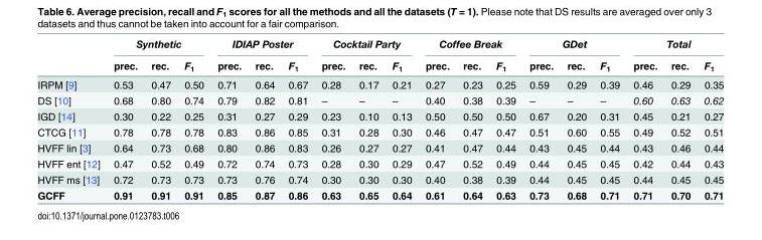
<table><thead><tr><td rowspan="2"></td><td colspan="3">Synthetic</td><td colspan="3">IDIAP Poster</td><td colspan="3">Cocktail Party</td><td colspan="3">Coffee Break</td><td colspan="3">GDet</td><td colspan="3">Total</td></tr><tr><td>prec.</td><td>rec.</td><td>F<sub>1</sub></td><td>prec.</td><td>rec.</td><td>F<sub>1</sub></td><td>prec.</td><td>rec.</td><td>F<sub>1</sub></td><td>prec.</td><td>rec.</td><td>F<sub>1</sub></td><td>prec.</td><td>rec.</td><td>F<sub>1</sub></td><td>prec.</td><td>rec.</td><td>F<sub>1</sub></td></tr></thead><tbody><tr><td>IRPM [9]</td><td>0.53</td><td>0.47</td><td>0.50</td><td>0.71</td><td>0.64</td><td>0.67</td><td>0.28</td><td>0.17</td><td>0.21</td><td>0.27</td><td>0.23</td><td>0.25</td><td>0.59</td><td>0.29</td><td>0.39</td><td>0.46</td><td>0.29</td><td>0.35</td></tr><tr><td>DS [10]</td><td>0.68</td><td>0.80</td><td>0.74</td><td>0.79</td><td>0.82</td><td>0.81</td><td>–</td><td>–</td><td>–</td><td>0.40</td><td>0.38</td><td>0.39</td><td>–</td><td>–</td><td>–</td><td>0.60</td><td>0.63</td><td>0.62</td></tr><tr><td>IGD [14]</td><td>0.30</td><td>0.22</td><td>0.25</td><td>0.31</td><td>0.27</td><td>0.29</td><td>0.23</td><td>0.10</td><td>0.13</td><td>0.50</td><td>0.50</td><td>0.50</td><td>0.67</td><td>0.20</td><td>0.31</td><td>0.45</td><td>0.21</td><td>0.27</td></tr><tr><td>CTCG [11]</td><td>0.78</td><td>0.78</td><td>0.78</td><td>0.83</td><td>0.86</td><td>0.85</td><td>0.31</td><td>0.28</td><td>0.30</td><td>0.46</td><td>0.47</td><td>0.47</td><td>0.51</td><td>0.60</td><td>0.55</td><td>0.49</td><td>0.52</td><td>0.51</td></tr><tr><td>HVFF lin [3]</td><td>0.64</td><td>0.73</td><td>0.68</td><td>0.80</td><td>0.86</td><td>0.83</td><td>0.26</td><td>0.27</td><td>0.27</td><td>0.41</td><td>0.47</td><td>0.44</td><td>0.43</td><td>0.45</td><td>0.44</td><td>0.43</td><td>0.46</td><td>0.44</td></tr><tr><td>HVFF ent [12]</td><td>0.47</td><td>0.52</td><td>0.49</td><td>0.72</td><td>0.74</td><td>0.73</td><td>0.28</td><td>0.30</td><td>0.29</td><td>0.47</td><td>0.52</td><td>0.49</td><td>0.44</td><td>0.45</td><td>0.45</td><td>0.42</td><td>0.44</td><td>0.43</td></tr><tr><td>HVFF ms [13]</td><td>0.72</td><td>0.73</td><td>0.73</td><td>0.73</td><td>0.76</td><td>0.74</td><td>0.30</td><td>0.30</td><td>0.30</td><td>0.40</td><td>0.38</td><td>0.39</td><td>0.44</td><td>0.45</td><td>0.45</td><td>0.44</td><td>0.45</td><td>0.45</td></tr><tr><td>GCFF</td><td>0.91</td><td>0.91</td><td>0.91</td><td>0.85</td><td>0.87</td><td>0.86</td><td>0.63</td><td>0.65</td><td>0.64</td><td>0.61</td><td>0.64</td><td>0.63</td><td>0.73</td><td>0.68</td><td>0.71</td><td>0.71</td><td>0.70</td><td>0.71</td></tr></tbody></table>